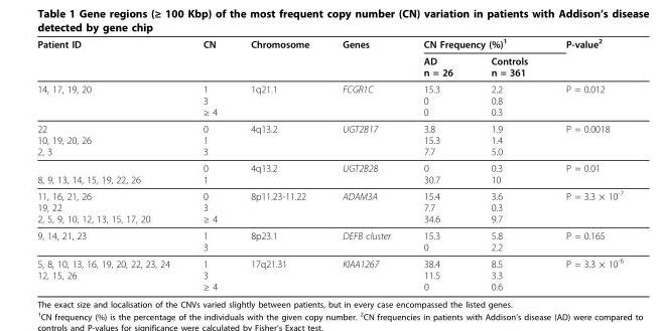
<table><thead><tr><td rowspan="2">Patient ID</td><td rowspan="2">CN</td><td rowspan="2">Chromosome</td><td rowspan="2">Genes</td><td colspan="2">CN Frequency (%)<sup>1</sup></td><td rowspan="2">P-value<sup>2</sup></td></tr><tr><td>AD n = 26</td><td>Controls n = 361</td></tr></thead><tbody><tr><td>14, 17, 19, 20</td><td>1 3 ≥ 4</td><td>1q21.1</td><td>FCGR1C</td><td>15.3 0 0</td><td>2.2 0.8 0.3</td><td>P = 0.012</td></tr><tr><td>22 10, 19, 20, 26 2, 3</td><td>0 1 3</td><td>4q13.2</td><td>UGT2B17</td><td>3.8 15.3 7.7</td><td>1.9 1.4 5.0</td><td>P = 0.0018</td></tr><tr><td>8, 9, 13, 14, 15, 19, 22, 26</td><td>0 1</td><td>4q13.2</td><td>UGT2B28</td><td>0 30.7</td><td>0.3 10</td><td>P = 0.01</td></tr><tr><td>11, 16, 21, 26 19, 22 2, 5, 9, 10, 12, 13, 15, 17, 20</td><td>0 3 ≥ 4</td><td>8p11.23-11.22</td><td>ADAM3A</td><td>15.4 7.7 34.6</td><td>3.6 0.3 9.7</td><td>P = 3.3 × 10<sup>-7</sup></td></tr><tr><td>9, 14, 21, 23</td><td>1 3</td><td>8p23.1</td><td>DEFB cluster</td><td>15.3 0</td><td>5.8 2.2</td><td>P = 0.165</td></tr><tr><td>5, 8, 10, 13, 16, 19, 20, 22, 23, 24 12, 15, 26</td><td>1 3 ≥ 4</td><td>17q21.31</td><td>KIAA1267</td><td>38.4 11.5 0</td><td>8.5 3.3 0.6</td><td>P = 3.3 × 10<sup>-6</sup></td></tr></tbody></table>